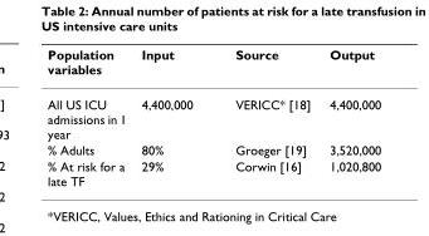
<table><thead><tr><td>Population variables</td><td>Input</td><td>Source</td><td>Output</td></tr></thead><tbody><tr><td>All US ICU admissions in 1 year</td><td>4,400,000</td><td>VERICC* [18]</td><td>4,400,000</td></tr><tr><td>% Adults</td><td>80%</td><td>Groeger [19]</td><td>3,520,000</td></tr><tr><td>% At risk for a late TF</td><td>29%</td><td>Corwin [16]</td><td>1,020,800</td></tr></tbody></table>